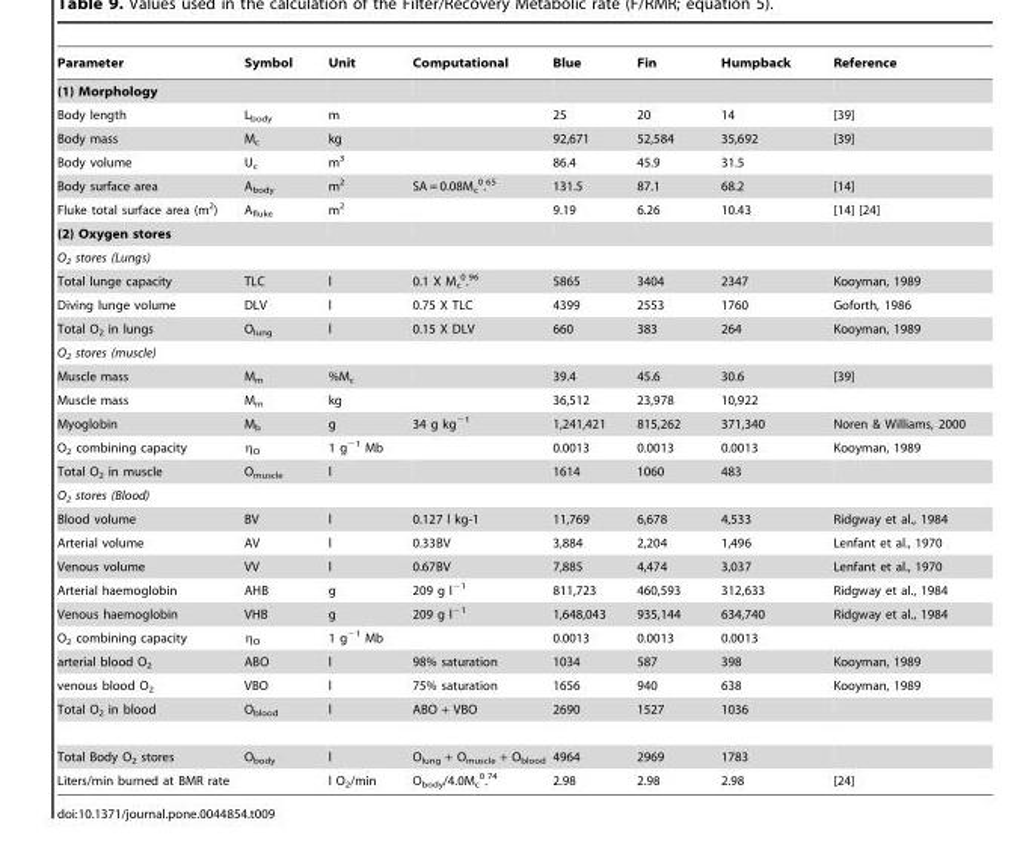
<table><thead><tr><td>Parameter</td><td>Symbol</td><td>Unit</td><td>Computational</td><td>Blue</td><td>Fin</td><td>Humpback</td><td>Reference</td></tr></thead><tbody><tr><td colspan="8">(1) Morphology</td></tr><tr><td>Body length</td><td>L<sub>body</sub></td><td>m</td><td></td><td>25</td><td>20</td><td>14</td><td>[39]</td></tr><tr><td>Body mass</td><td>M<sub>c</sub></td><td>kg</td><td></td><td>92,671</td><td>52,584</td><td>35,692</td><td>[39]</td></tr><tr><td>Body volume</td><td>U<sub>c</sub></td><td>m<sup>3</sup></td><td></td><td>86.4</td><td>45.9</td><td>31.5</td><td></td></tr><tr><td>Body surface area</td><td>A<sub>body</sub></td><td>m<sup>2</sup></td><td>SA = 0.08M<sub>c</sub> <sup>0</sup>.<sup>65</sup></td><td>131.5</td><td>87.1</td><td>68.2</td><td>[14]</td></tr><tr><td>Fluke total surface area (m<sup>2</sup>)</td><td>A<sub>fluke</sub></td><td>m<sup>2</sup></td><td></td><td>9.19</td><td>6.26</td><td>10.43</td><td>[14] [24]</td></tr><tr><td colspan="8">(2) Oxygen stores</td></tr><tr><td colspan="8">O<sub>2</sub> stores (Lungs)</td></tr><tr><td>Total lunge capacity</td><td>TLC</td><td>l</td><td>0.1 X M<sub>c</sub> <sup>0</sup>.<sup>96</sup></td><td>5865</td><td>3404</td><td>2347</td><td>Kooyman, 1989</td></tr><tr><td>Diving lunge volume</td><td>DLV</td><td>l</td><td>0.75 X TLC</td><td>4399</td><td>2553</td><td>1760</td><td>Goforth, 1986</td></tr><tr><td>Total O<sub>2</sub> in lungs</td><td>O<sub>lung</sub></td><td>l</td><td>0.15 X DLV</td><td>660</td><td>383</td><td>264</td><td>Kooyman, 1989</td></tr><tr><td colspan="8">O<sub>2</sub> stores (muscle)</td></tr><tr><td>Muscle mass</td><td>M<sub>m</sub></td><td>%M<sub>c</sub></td><td></td><td>39.4</td><td>45.6</td><td>30.6</td><td>[39]</td></tr><tr><td>Muscle mass</td><td>M<sub>m</sub></td><td>kg</td><td></td><td>36,512</td><td>23,978</td><td>10,922</td><td></td></tr><tr><td>Myoglobin</td><td>M<sub>b</sub></td><td>g</td><td>34 g kg<sup>−1</sup></td><td>1,241,421</td><td>815,262</td><td>371,340</td><td>Noren &amp; Williams, 2000</td></tr><tr><td>O<sub>2</sub> combining capacity</td><td>η<sub>O</sub></td><td>1 g<sup>−1</sup> Mb</td><td></td><td>0.0013</td><td>0.0013</td><td>0.0013</td><td>Kooyman, 1989</td></tr><tr><td>Total O<sub>2</sub> in muscle</td><td>O<sub>muscle</sub></td><td>l</td><td></td><td>1614</td><td>1060</td><td>483</td><td></td></tr><tr><td colspan="8">O<sub>2</sub> stores (Blood)</td></tr><tr><td>Blood volume</td><td>BV</td><td>l</td><td>0.127 l kg-1</td><td>11,769</td><td>6,678</td><td>4,533</td><td>Ridgway et al., 1984</td></tr><tr><td>Arterial volume</td><td>AV</td><td>l</td><td>0.33BV</td><td>3,884</td><td>2,204</td><td>1,496</td><td>Lenfant et al., 1970</td></tr><tr><td>Venous volume</td><td>VV</td><td>l</td><td>0.67BV</td><td>7,885</td><td>4,474</td><td>3,037</td><td>Lenfant et al., 1970</td></tr><tr><td>Arterial haemoglobin</td><td>AHB</td><td>g</td><td>209 g l<sup>−1</sup></td><td>811,723</td><td>460,593</td><td>312,633</td><td>Ridgway et al., 1984</td></tr><tr><td>Venous haemoglobin</td><td>VHB</td><td>g</td><td>209 g l<sup>−1</sup></td><td>1,648,043</td><td>935,144</td><td>634,740</td><td>Ridgway et al., 1984</td></tr><tr><td>O<sub>2</sub> combining capacity</td><td>η<sub>O</sub></td><td>1 g<sup>−1</sup> Mb</td><td></td><td>0.0013</td><td>0.0013</td><td>0.0013</td><td></td></tr><tr><td>arterial blood O<sub>2</sub></td><td>ABO</td><td>l</td><td>98% saturation</td><td>1034</td><td>587</td><td>398</td><td>Kooyman, 1989</td></tr><tr><td>venous blood O<sub>2</sub></td><td>VBO</td><td>l</td><td>75% saturation</td><td>1656</td><td>940</td><td>638</td><td>Kooyman, 1989</td></tr><tr><td>Total O<sub>2</sub> in blood</td><td>O<sub>blood</sub></td><td>l</td><td>ABO + VBO</td><td>2690</td><td>1527</td><td>1036</td><td></td></tr><tr><td>Total Body O<sub>2</sub> stores</td><td>O<sub>body</sub></td><td>l</td><td>O<sub>lung</sub> + O<sub>muscle</sub> + O<sub>blood</sub></td><td>4964</td><td>2969</td><td>1783</td><td></td></tr><tr><td>Liters/min burned at BMR rate</td><td></td><td>l O<sub>2</sub>/min</td><td>O<sub>body</sub>/4.0M<sub>c</sub> <sup>0</sup>.<sup>74</sup></td><td>2.98</td><td>2.98</td><td>2.98</td><td>[24]</td></tr></tbody></table>